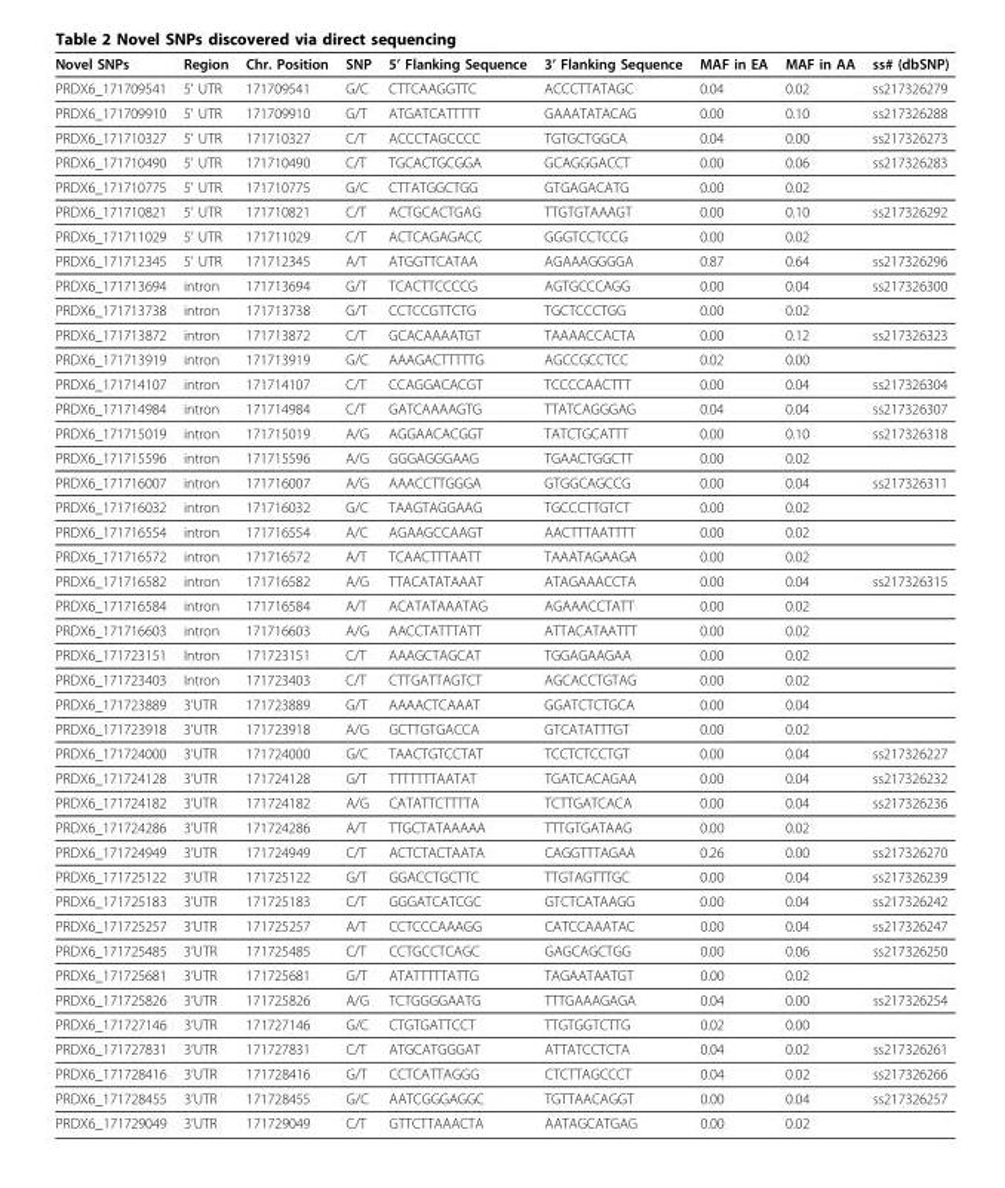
<table><thead><tr><td>Novel SNPs</td><td>Region</td><td>Chr. Position</td><td>SNP</td><td>5’ Flanking Sequence</td><td>3’ Flanking Sequence</td><td>MAF in EA</td><td>MAF in AA</td><td>ss# (dbSNP)</td></tr></thead><tbody><tr><td>PRDX6_171709541</td><td>5’ UTR</td><td>171709541</td><td>G/C</td><td>CTTCAAGGTTC</td><td>ACCCTTATAGC</td><td>0.04</td><td>0.02</td><td>ss217326279</td></tr><tr><td>PRDX6_171709910</td><td>5’ UTR</td><td>171709910</td><td>G/T</td><td>ATGATCATTTTT</td><td>GAAATATACAG</td><td>0.00</td><td>0.10</td><td>ss217326288</td></tr><tr><td>PRDX6_171710327</td><td>5’ UTR</td><td>171710327</td><td>C/T</td><td>ACCCTAGCCCC</td><td>TGTGCTGGCA</td><td>0.04</td><td>0.00</td><td>ss217326273</td></tr><tr><td>PRDX6_171710490</td><td>5’ UTR</td><td>171710490</td><td>C/T</td><td>TGCACTGCGGA</td><td>GCAGGGACCT</td><td>0.00</td><td>0.06</td><td>ss217326283</td></tr><tr><td>PRDX6_171710775</td><td>5’ UTR</td><td>171710775</td><td>G/C</td><td>CTTATGGCTGG</td><td>GTGAGACATG</td><td>0.00</td><td>0.02</td><td></td></tr><tr><td>PRDX6_171710821</td><td>5’ UTR</td><td>171710821</td><td>C/T</td><td>ACTGCACTGAG</td><td>TTGTGTAAAGT</td><td>0.00</td><td>0.10</td><td>ss217326292</td></tr><tr><td>PRDX6_171711029</td><td>5’ UTR</td><td>171711029</td><td>C/T</td><td>ACTCAGAGACC</td><td>GGGTCCTCCG</td><td>0.00</td><td>0.02</td><td></td></tr><tr><td>PRDX6_171712345</td><td>5’ UTR</td><td>171712345</td><td>A/T</td><td>ATGGTTCATAA</td><td>AGAAAGGGGA</td><td>0.87</td><td>0.64</td><td>ss217326296</td></tr><tr><td>PRDX6_171713694</td><td>intron</td><td>171713694</td><td>G/T</td><td>TCACTTCCCCG</td><td>AGTGCCCAGG</td><td>0.00</td><td>0.04</td><td>ss217326300</td></tr><tr><td>PRDX6_171713738</td><td>intron</td><td>171713738</td><td>G/T</td><td>CCTCCGTTCTG</td><td>TGCTCCCTGG</td><td>0.00</td><td>0.02</td><td></td></tr><tr><td>PRDX6_171713872</td><td>intron</td><td>171713872</td><td>C/T</td><td>GCACAAAATGT</td><td>TAAAACCACTA</td><td>0.00</td><td>0.12</td><td>ss217326323</td></tr><tr><td>PRDX6_171713919</td><td>intron</td><td>171713919</td><td>G/C</td><td>AAAGACTTTTTG</td><td>AGCCGCCTCC</td><td>0.02</td><td>0.00</td><td></td></tr><tr><td>PRDX6_171714107</td><td>intron</td><td>171714107</td><td>C/T</td><td>CCAGGACACGT</td><td>TCCCCAACTTT</td><td>0.00</td><td>0.04</td><td>ss217326304</td></tr><tr><td>PRDX6_171714984</td><td>intron</td><td>171714984</td><td>C/T</td><td>GATCAAAAGTG</td><td>TTATCAGGGAG</td><td>0.04</td><td>0.04</td><td>ss217326307</td></tr><tr><td>PRDX6_171715019</td><td>intron</td><td>171715019</td><td>A/G</td><td>AGGAACACGGT</td><td>TATCTGCATTT</td><td>0.00</td><td>0.10</td><td>ss217326318</td></tr><tr><td>PRDX6_171715596</td><td>intron</td><td>171715596</td><td>A/G</td><td>GGGAGGGAAG</td><td>TGAACTGGCTT</td><td>0.00</td><td>0.02</td><td></td></tr><tr><td>PRDX6_171716007</td><td>intron</td><td>171716007</td><td>A/G</td><td>AAACCTTGGGA</td><td>GTGGCAGCCG</td><td>0.00</td><td>0.04</td><td>ss217326311</td></tr><tr><td>PRDX6_171716032</td><td>intron</td><td>171716032</td><td>G/C</td><td>TAAGTAGGAAG</td><td>TGCCCTTGTCT</td><td>0.00</td><td>0.02</td><td></td></tr><tr><td>PRDX6_171716554</td><td>intron</td><td>171716554</td><td>A/C</td><td>AGAAGCCAAGT</td><td>AACTTTAATTTT</td><td>0.00</td><td>0.02</td><td></td></tr><tr><td>PRDX6_171716572</td><td>intron</td><td>171716572</td><td>A/T</td><td>TCAACTTTAATT</td><td>TAAATAGAAGA</td><td>0.00</td><td>0.02</td><td></td></tr><tr><td>PRDX6_171716582</td><td>intron</td><td>171716582</td><td>A/G</td><td>TTACATATAAAT</td><td>ATAGAAACCTA</td><td>0.00</td><td>0.04</td><td>ss217326315</td></tr><tr><td>PRDX6_171716584</td><td>intron</td><td>171716584</td><td>A/T</td><td>ACATATAAATAG</td><td>AGAAACCTATT</td><td>0.00</td><td>0.02</td><td></td></tr><tr><td>PRDX6_171716603</td><td>intron</td><td>171716603</td><td>A/G</td><td>AACCTATTTATT</td><td>ATTACATAATTT</td><td>0.00</td><td>0.02</td><td></td></tr><tr><td>PRDX6_171723151</td><td>Intron</td><td>171723151</td><td>C/T</td><td>AAAGCTAGCAT</td><td>TGGAGAAGAA</td><td>0.00</td><td>0.02</td><td></td></tr><tr><td>PRDX6_171723403</td><td>Intron</td><td>171723403</td><td>C/T</td><td>CTTGATTAGTCT</td><td>AGCACCTGTAG</td><td>0.00</td><td>0.02</td><td></td></tr><tr><td>PRDX6_171723889</td><td>3’UTR</td><td>171723889</td><td>G/T</td><td>AAAACTCAAAT</td><td>GGATCTCTGCA</td><td>0.00</td><td>0.04</td><td></td></tr><tr><td>PRDX6_171723918</td><td>3’UTR</td><td>171723918</td><td>A/G</td><td>GCTTGTGACCA</td><td>GTCATATTTGT</td><td>0.00</td><td>0.02</td><td></td></tr><tr><td>PRDX6_171724000</td><td>3’UTR</td><td>171724000</td><td>G/C</td><td>TAACTGTCCTAT</td><td>TCCTCTCCTGT</td><td>0.00</td><td>0.04</td><td>ss217326227</td></tr><tr><td>PRDX6_171724128</td><td>3’UTR</td><td>171724128</td><td>G/T</td><td>TTTTTTTAATAT</td><td>TGATCACAGAA</td><td>0.00</td><td>0.04</td><td>ss217326232</td></tr><tr><td>PRDX6_171724182</td><td>3’UTR</td><td>171724182</td><td>A/G</td><td>CATATTCTTTTA</td><td>TCTTGATCACA</td><td>0.00</td><td>0.04</td><td>ss217326236</td></tr><tr><td>PRDX6_171724286</td><td>3’UTR</td><td>171724286</td><td>A/T</td><td>TTGCTATAAAAA</td><td>TTTGTGATAAG</td><td>0.00</td><td>0.02</td><td></td></tr><tr><td>PRDX6_171724949</td><td>3’UTR</td><td>171724949</td><td>C/T</td><td>ACTCTACTAATA</td><td>CAGGTTTAGAA</td><td>0.26</td><td>0.00</td><td>ss217326270</td></tr><tr><td>PRDX6_171725122</td><td>3’UTR</td><td>171725122</td><td>G/T</td><td>GGACCTGCTTC</td><td>TTGTAGTTTGC</td><td>0.00</td><td>0.04</td><td>ss217326239</td></tr><tr><td>PRDX6_171725183</td><td>3’UTR</td><td>171725183</td><td>C/T</td><td>GGGATCATCGC</td><td>GTCTCATAAGG</td><td>0.00</td><td>0.04</td><td>ss217326242</td></tr><tr><td>PRDX6_171725257</td><td>3’UTR</td><td>171725257</td><td>A/T</td><td>CCTCCCAAAGG</td><td>CATCCAAATAC</td><td>0.00</td><td>0.04</td><td>ss217326247</td></tr><tr><td>PRDX6_171725485</td><td>3’UTR</td><td>171725485</td><td>C/T</td><td>CCTGCCTCAGC</td><td>GAGCAGCTGG</td><td>0.00</td><td>0.06</td><td>ss217326250</td></tr><tr><td>PRDX6_171725681</td><td>3’UTR</td><td>171725681</td><td>G/T</td><td>ATATTTTTATTG</td><td>TAGAATAATGT</td><td>0.00</td><td>0.02</td><td></td></tr><tr><td>PRDX6_171725826</td><td>3’UTR</td><td>171725826</td><td>A/G</td><td>TCTGGGGAATG</td><td>TTTGAAAGAGA</td><td>0.04</td><td>0.00</td><td>ss217326254</td></tr><tr><td>PRDX6_171727146</td><td>3’UTR</td><td>171727146</td><td>G/C</td><td>CTGTGATTCCT</td><td>TTGTGGTCTTG</td><td>0.02</td><td>0.00</td><td></td></tr><tr><td>PRDX6_171727831</td><td>3’UTR</td><td>171727831</td><td>C/T</td><td>ATGCATGGGAT</td><td>ATTATCCTCTA</td><td>0.04</td><td>0.02</td><td>ss217326261</td></tr><tr><td>PRDX6_171728416</td><td>3’UTR</td><td>171728416</td><td>G/T</td><td>CCTCATTAGGG</td><td>CTCTTAGCCCT</td><td>0.04</td><td>0.02</td><td>ss217326266</td></tr><tr><td>PRDX6_171728455</td><td>3’UTR</td><td>171728455</td><td>G/C</td><td>AATCGGGAGGC</td><td>TGTTAACAGGT</td><td>0.00</td><td>0.04</td><td>ss217326257</td></tr><tr><td>PRDX6_171729049</td><td>3’UTR</td><td>171729049</td><td>C/T</td><td>GTTCTTAAACTA</td><td>AATAGCATGAG</td><td>0.00</td><td>0.02</td><td></td></tr></tbody></table>